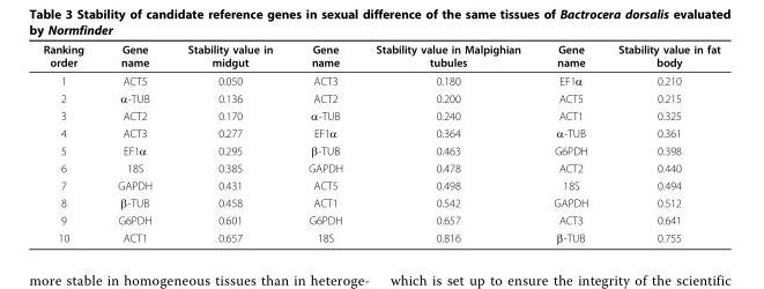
<table><thead><tr><td>Ranking order</td><td>Gene name</td><td>Stability value in midgut</td><td>Gene name</td><td>Stability value in Malpighian tubules</td><td>Gene name</td><td>Stability value in fat body</td></tr></thead><tbody><tr><td>1</td><td>ACT5</td><td>0.050</td><td>ACT3</td><td>0.180</td><td>EF1α</td><td>0.210</td></tr><tr><td>2</td><td>α-TUB</td><td>0.136</td><td>ACT2</td><td>0.200</td><td>ACT5</td><td>0.215</td></tr><tr><td>3</td><td>ACT2</td><td>0.170</td><td>α-TUB</td><td>0.240</td><td>ACT1</td><td>0.325</td></tr><tr><td>4</td><td>ACT3</td><td>0.277</td><td>EF1α</td><td>0.364</td><td>α-TUB</td><td>0.361</td></tr><tr><td>5</td><td>EF1α</td><td>0.295</td><td>β-TUB</td><td>0.463</td><td>G6PDH</td><td>0.398</td></tr><tr><td>6</td><td>18S</td><td>0.385</td><td>GAPDH</td><td>0.478</td><td>ACT2</td><td>0.440</td></tr><tr><td>7</td><td>GAPDH</td><td>0.431</td><td>ACT5</td><td>0.498</td><td>18S</td><td>0.494</td></tr><tr><td>8</td><td>β-TUB</td><td>0.458</td><td>ACT1</td><td>0.542</td><td>GAPDH</td><td>0.512</td></tr><tr><td>9</td><td>G6PDH</td><td>0.601</td><td>G6PDH</td><td>0.657</td><td>ACT3</td><td>0.641</td></tr><tr><td>10</td><td>ACT1</td><td>0.657</td><td>18S</td><td>0.816</td><td>β-TUB</td><td>0.755</td></tr></tbody></table>